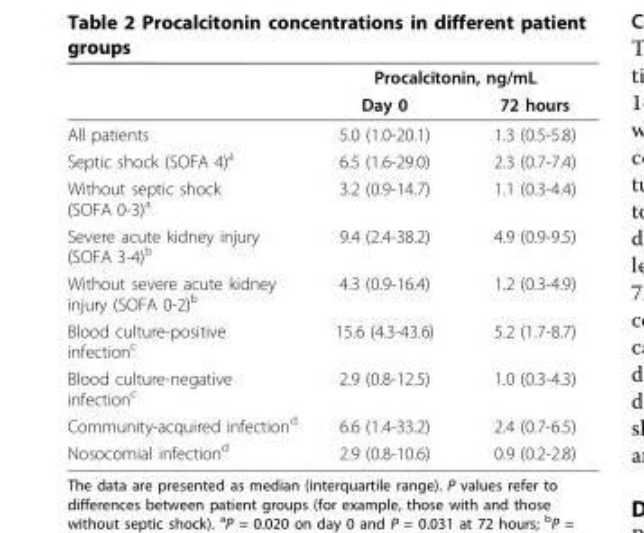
<table><thead><tr><td rowspan="2"></td><td colspan="2">Procalcitonin, ng/mL</td></tr><tr><td>Day 0</td><td>72 hours</td></tr></thead><tbody><tr><td>All patients</td><td>5.0 (1.0-20.1)</td><td>1.3 (0.5-5.8)</td></tr><tr><td>Septic shock (SOFA 4)<sup>a</sup></td><td>6.5 (1.6-29.0)</td><td>2.3 (0.7-7.4)</td></tr><tr><td>Without septic shock (SOFA 0-3)<sup>a</sup></td><td>3.2 (0.9-14.7)</td><td>1.1 (0.3-4.4)</td></tr><tr><td>Severe acute kidney injury (SOFA 3-4)<sup>b</sup></td><td>9.4 (2.4-38.2)</td><td>4.9 (0.9-9.5)</td></tr><tr><td>Without severe acute kidney injury (SOFA 0-2)<sup>b</sup></td><td>4.3 (0.9-16.4)</td><td>1.2 (0.3-4.9)</td></tr><tr><td>Blood culture-positive infection<sup>c</sup></td><td>15.6 (4.3-43.6)</td><td>5.2 (1.7-8.7)</td></tr><tr><td>Blood culture-negative infection<sup>c</sup></td><td>2.9 (0.8-12.5)</td><td>1.0 (0.3-4.3)</td></tr><tr><td>Community-acquired infection<sup>d</sup></td><td>6.6 (1.4-33.2)</td><td>2.4 (0.7-6.5)</td></tr><tr><td>Nosocomial infection<sup>d</sup></td><td>2.9 (0.8-10.6)</td><td>0.9 (0.2-2.8)</td></tr></tbody></table>